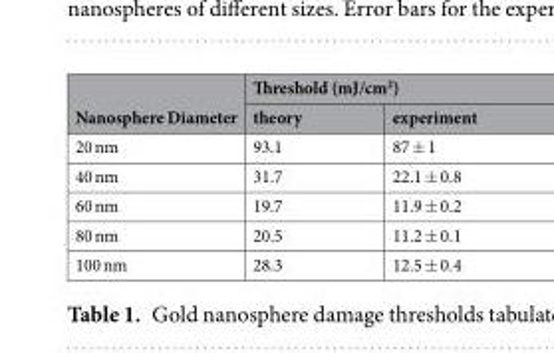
<table><thead><tr><td rowspan="2">Nanosphere Diameter</td><td colspan="2">Threshold (mJ/cm<sup>2</sup>)</td></tr><tr><td>theory</td><td>experiment</td></tr></thead><tbody><tr><td>20 nm</td><td>93.1</td><td>87 ± 1</td></tr><tr><td>40 nm</td><td>31.7</td><td>22.1 ± 0.8</td></tr><tr><td>60 nm</td><td>19.7</td><td>11.9 ± 0.2</td></tr><tr><td>80 nm</td><td>20.5</td><td>11.2 ± 0.1</td></tr><tr><td>100 nm</td><td>28.3</td><td>12.5 ± 0.4</td></tr></tbody></table>